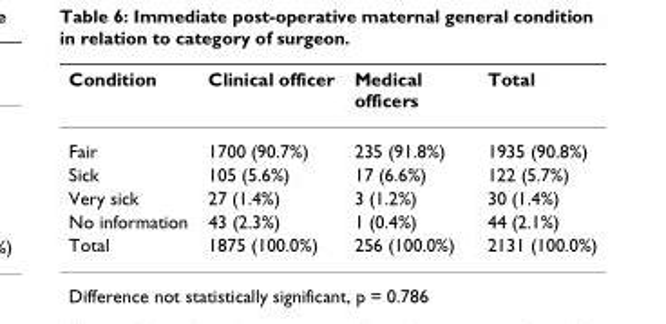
<table><thead><tr><td>Condition</td><td>Clinical officer</td><td>Medical officers</td><td>Total</td></tr></thead><tbody><tr><td>Fair</td><td>1700 (90.7%)</td><td>235 (91.8%)</td><td>1935 (90.8%)</td></tr><tr><td>Sick</td><td>105 (5.6%)</td><td>17 (6.6%)</td><td>122 (5.7%)</td></tr><tr><td>Very sick</td><td>27 (1.4%)</td><td>3 (1.2%)</td><td>30 (1.4%)</td></tr><tr><td>No information</td><td>43 (2.3%)</td><td>1 (0.4%)</td><td>44 (2.1%)</td></tr><tr><td>Total</td><td>1875 (100.0%)</td><td>256 (100.0%)</td><td>2131 (100.0%)</td></tr></tbody></table>